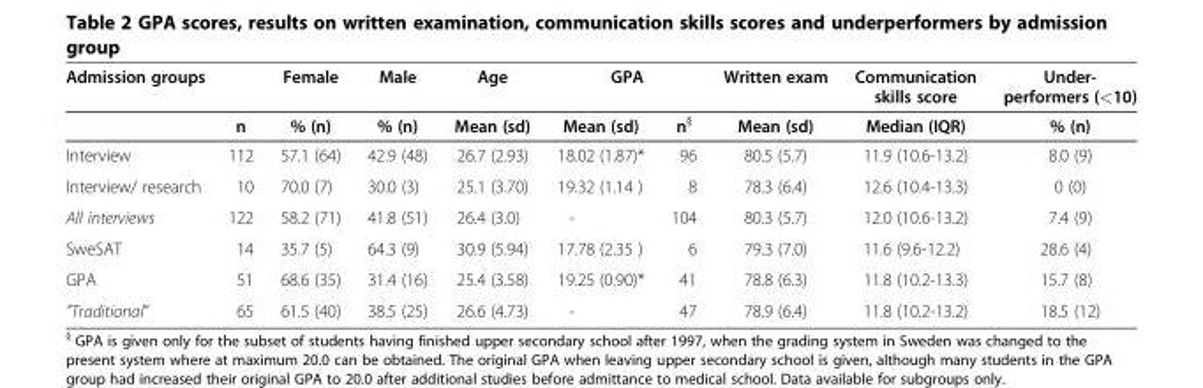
<table><thead><tr><td colspan="2">Admission groups</td><td rowspan="2">Female % (n)</td><td rowspan="2">Male % (n)</td><td rowspan="2">Age Mean (sd)</td><td colspan="2">GPA</td><td rowspan="2">Written exam Mean (sd)</td><td rowspan="2">Communication skills score Median (IQR)</td><td rowspan="2">Under- performers (&lt;10) % (n)</td></tr><tr><td></td><td>n</td><td>Mean (sd)</td><td>n<sup>§</sup></td></tr></thead><tbody><tr><td>Interview</td><td>112</td><td>57.1 (64)</td><td>42.9 (48)</td><td>26.7 (2.93)</td><td>18.02 (1.87)*</td><td>96</td><td>80.5 (5.7)</td><td>11.9 (10.6-13.2)</td><td>8.0 (9)</td></tr><tr><td>Interview/ research</td><td>10</td><td>70.0 (7)</td><td>30.0 (3)</td><td>25.1 (3.70)</td><td>19.32 (1.14 )</td><td>8</td><td>78.3 (6.4)</td><td>12.6 (10.4-13.3)</td><td>0 (0)</td></tr><tr><td>All interviews</td><td>122</td><td>58.2 (71)</td><td>41.8 (51)</td><td>26.4 (3.0)</td><td>-</td><td>104</td><td>80.3 (5.7)</td><td>12.0 (10.6-13.2)</td><td>7.4 (9)</td></tr><tr><td>SweSAT</td><td>14</td><td>35.7 (5)</td><td>64.3 (9)</td><td>30.9 (5.94)</td><td>17.78 (2.35 )</td><td>6</td><td>79.3 (7.0)</td><td>11.6 (9.6-12.2)</td><td>28.6 (4)</td></tr><tr><td>GPA</td><td>51</td><td>68.6 (35)</td><td>31.4 (16)</td><td>25.4 (3.58)</td><td>19.25 (0.90)*</td><td>41</td><td>78.8 (6.3)</td><td>11.8 (10.2-13.3)</td><td>15.7 (8)</td></tr><tr><td>”Traditional”</td><td>65</td><td>61.5 (40)</td><td>38.5 (25)</td><td>26.6 (4.73)</td><td>-</td><td>47</td><td>78.9 (6.4)</td><td>11.8 (10.2-13.2)</td><td>18.5 (12)</td></tr></tbody></table>